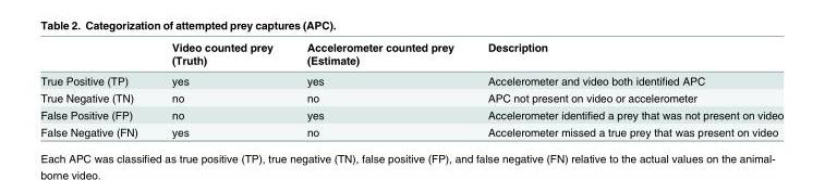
<table><thead><tr><td rowspan="2"></td><td rowspan="2">Video counted prey (Truth)</td><td rowspan="2">Accelerometer counted prey (Estimate)</td><td rowspan="2">Description</td></tr><tr></tr></thead><tbody><tr><td>True Positive (TP)</td><td>yes</td><td>yes</td><td>Accelerometer and video both identified APC</td></tr><tr><td>True Negative (TN)</td><td>no</td><td>no</td><td>APC not present on video or accelerometer</td></tr><tr><td>False Positive (FP)</td><td>no</td><td>yes</td><td>Accelerometer identified a prey that was not present on video</td></tr><tr><td>False Negative (FN)</td><td>yes</td><td>no</td><td>Accelerometer missed a true prey that was present on video</td></tr></tbody></table>